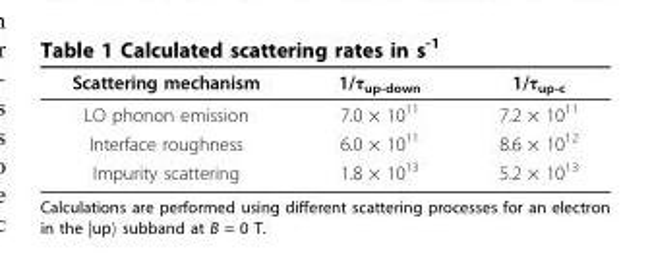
<table><thead><tr><td>Scattering mechanism</td><td>1/τ<sub>up-down</sub></td><td>1/τ<sub>up-c</sub></td></tr></thead><tbody><tr><td>LO phonon emission</td><td>7.0 × 10<sup>11</sup></td><td>7.2 × 10<sup>11</sup></td></tr><tr><td>Interface roughness</td><td>6.0 × 10<sup>11</sup></td><td>8.6 × 10<sup>12</sup></td></tr><tr><td>Impurity scattering</td><td>1.8 × 10<sup>13</sup></td><td>5.2 × 10<sup>13</sup></td></tr></tbody></table>